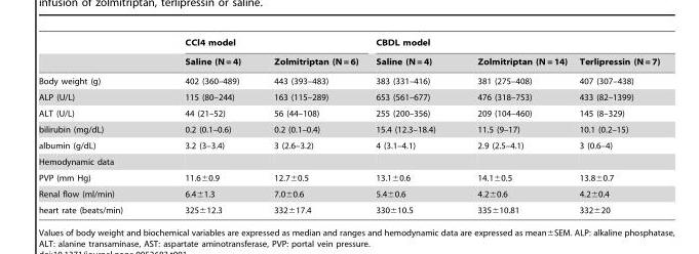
<table><thead><tr><td rowspan="2"></td><td colspan="2">CCl4 model</td><td colspan="3">CBDL model</td></tr><tr><td>Saline (N = 4)</td><td>Zolmitriptan (N = 6)</td><td>Saline (N = 4)</td><td>Zolmitriptan (N = 14)</td><td>Terlipressin (N = 7)</td></tr></thead><tbody><tr><td>Body weight (g)</td><td>402 (360–489)</td><td>443 (393–483)</td><td>383 (331–416)</td><td>381 (275–408)</td><td>407 (307–438)</td></tr><tr><td>ALP (U/L)</td><td>115 (80–244)</td><td>163 (115–289)</td><td>653 (561–677)</td><td>476 (318–753)</td><td>433 (82–1399)</td></tr><tr><td>ALT (U/L)</td><td>44 (21–52)</td><td>56 (44–108)</td><td>255 (200–356)</td><td>209 (104–460)</td><td>145 (8–329)</td></tr><tr><td>bilirubin (mg/dL)</td><td>0.2 (0.1–0.6)</td><td>0.2 (0.1–0.4)</td><td>15.4 (12.3–18.4)</td><td>11.5 (9–17)</td><td>10.1 (0.2–15)</td></tr><tr><td>albumin (g/dL)</td><td>3.2 (3–3.4)</td><td>3 (2.6–3.2)</td><td>4 (3.1–4.1)</td><td>2.9 (2.5–4.1)</td><td>3 (0.6–4)</td></tr><tr><td colspan="6">Hemodynamic data</td></tr><tr><td>PVP (mm Hg)</td><td>11.6±0.9</td><td>12.7±0.5</td><td>13.1±0.6</td><td>14.1±0.5</td><td>13.8±0.7</td></tr><tr><td>Renal flow (ml/min)</td><td>6.4±1.3</td><td>7.0±0.6</td><td>5.4±0.6</td><td>4.2±0.6</td><td>4.2±0.4</td></tr><tr><td>heart rate (beats/min)</td><td>325±12.3</td><td>332±17.4</td><td>330±10.5</td><td>335±10.81</td><td>332±20</td></tr></tbody></table>